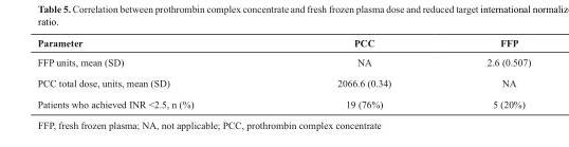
<table><thead><tr><td>Parameter</td><td>PCC</td><td>FFP</td></tr></thead><tbody><tr><td>FFP units, mean (SD)</td><td>NA</td><td>2.6 (0.507)</td></tr><tr><td>PCC total dose, units, mean (SD)</td><td>2066.6 (0.34)</td><td>NA</td></tr><tr><td>Patients who achieved INR &lt;2.5, n (%)</td><td>19 (76%)</td><td>5 (20%)</td></tr></tbody></table>